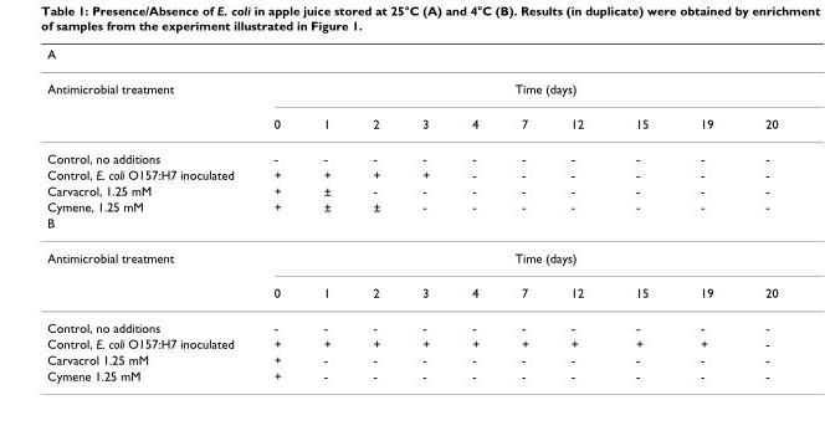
<table><thead><tr><td colspan="11">A</td></tr><tr><td rowspan="2">Antimicrobial treatment</td><td colspan="10">Time (days)</td></tr><tr><td>0</td><td>1</td><td>2</td><td>3</td><td>4</td><td>7</td><td>12</td><td>15</td><td>19</td><td>20</td></tr></thead><tbody><tr><td>Control, no additions</td><td>-</td><td>-</td><td>-</td><td>-</td><td>-</td><td>-</td><td>-</td><td>-</td><td>-</td><td>-</td></tr><tr><td>Control, E. coli O157:H7 inoculated</td><td>+</td><td>+</td><td>+</td><td>+</td><td>-</td><td>-</td><td>-</td><td>-</td><td>-</td><td>-</td></tr><tr><td>Carvacrol, 1.25 mM</td><td>+</td><td>±</td><td>-</td><td>-</td><td>-</td><td>-</td><td>-</td><td>-</td><td>-</td><td>-</td></tr><tr><td>Cymene, 1.25 mM</td><td>+</td><td>±</td><td>±</td><td>-</td><td>-</td><td>-</td><td>-</td><td>-</td><td>-</td><td>-</td></tr><tr><td colspan="11">B</td></tr><tr><td rowspan="2">Antimicrobial treatment</td><td colspan="10">Time (days)</td></tr><tr><td>0</td><td>1</td><td>2</td><td>3</td><td>4</td><td>7</td><td>12</td><td>15</td><td>19</td><td>20</td></tr><tr><td>Control, no additions</td><td>-</td><td>-</td><td>-</td><td>-</td><td>-</td><td>-</td><td>-</td><td>-</td><td>-</td><td>-</td></tr><tr><td>Control, E. coli O157:H7 inoculated</td><td>+</td><td>+</td><td>+</td><td>+</td><td>+</td><td>+</td><td>+</td><td>+</td><td>+</td><td>-</td></tr><tr><td>Carvacrol 1.25 mM</td><td>+</td><td>-</td><td>-</td><td>-</td><td>-</td><td>-</td><td>-</td><td>-</td><td>-</td><td>-</td></tr><tr><td>Cymene 1.25 mM</td><td>+</td><td>-</td><td>-</td><td>-</td><td>-</td><td>-</td><td>-</td><td>-</td><td>-</td><td>-</td></tr></tbody></table>